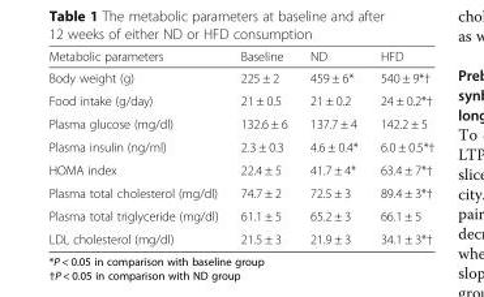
<table><thead><tr><td>Metabolic parameters</td><td>Baseline</td><td>ND</td><td>HFD</td></tr></thead><tbody><tr><td>Body weight (g)</td><td>225 ± 2</td><td>459 ± 6*</td><td>540 ± 9*†</td></tr><tr><td>Food intake (g/day)</td><td>21 ± 0.5</td><td>21 ± 0.2</td><td>24 ± 0.2*†</td></tr><tr><td>Plasma glucose (mg/dl)</td><td>132.6 ± 6</td><td>137.7 ± 4</td><td>142.2 ± 5</td></tr><tr><td>Plasma insulin (ng/ml)</td><td>2.3 ± 0.3</td><td>4.6 ± 0.4*</td><td>6.0 ± 0.5*†</td></tr><tr><td>HOMA index</td><td>22.4 ± 5</td><td>41.7 ± 4*</td><td>63.4 ± 7*†</td></tr><tr><td>Plasma total cholesterol (mg/dl)</td><td>74.7 ± 2</td><td>72.5 ± 3</td><td>89.4 ± 3*†</td></tr><tr><td>Plasma total triglyceride (mg/dl)</td><td>61.1 ± 5</td><td>65.2 ± 3</td><td>66.1 ± 5</td></tr><tr><td>LDL cholesterol (mg/dl)</td><td>21.5 ± 3</td><td>21.9 ± 3</td><td>34.1 ± 3*†</td></tr></tbody></table>